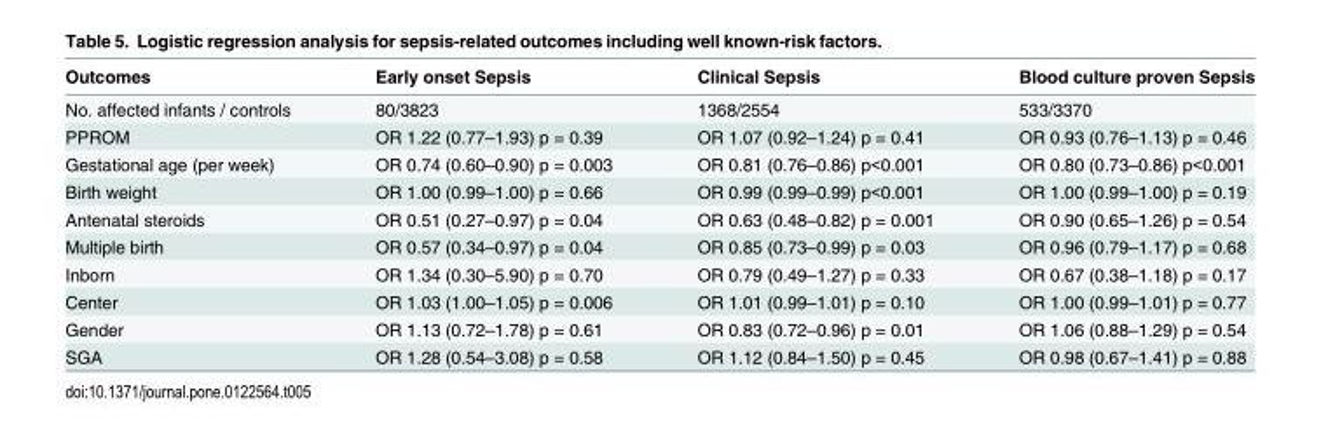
<table><thead><tr><td>Outcomes</td><td>Early onset Sepsis</td><td>Clinical Sepsis</td><td>Blood culture proven Sepsis</td></tr></thead><tbody><tr><td>No. affected infants / controls</td><td>80/3823</td><td>1368/2554</td><td>533/3370</td></tr><tr><td>PPROM</td><td>OR 1.22 (0.77–1.93) p = 0.39</td><td>OR 1.07 (0.92–1.24) p = 0.41</td><td>OR 0.93 (0.76–1.13) p = 0.46</td></tr><tr><td>Gestational age (per week)</td><td>OR 0.74 (0.60–0.90) p = 0.003</td><td>OR 0.81 (0.76–0.86) p&lt;0.001</td><td>OR 0.80 (0.73–0.86) p&lt;0.001</td></tr><tr><td>Birth weight</td><td>OR 1.00 (0.99–1.00) p = 0.66</td><td>OR 0.99 (0.99–0.99) p&lt;0.001</td><td>OR 1.00 (0.99–1.00) p = 0.19</td></tr><tr><td>Antenatal steroids</td><td>OR 0.51 (0.27–0.97) p = 0.04</td><td>OR 0.63 (0.48–0.82) p = 0.001</td><td>OR 0.90 (0.65–1.26) p = 0.54</td></tr><tr><td>Multiple birth</td><td>OR 0.57 (0.34–0.97) p = 0.04</td><td>OR 0.85 (0.73–0.99) p = 0.03</td><td>OR 0.96 (0.79–1.17) p = 0.68</td></tr><tr><td>Inborn</td><td>OR 1.34 (0.30–5.90) p = 0.70</td><td>OR 0.79 (0.49–1.27) p = 0.33</td><td>OR 0.67 (0.38–1.18) p = 0.17</td></tr><tr><td>Center</td><td>OR 1.03 (1.00–1.05) p = 0.006</td><td>OR 1.01 (0.99–1.01) p = 0.10</td><td>OR 1.00 (0.99–1.01) p = 0.77</td></tr><tr><td>Gender</td><td>OR 1.13 (0.72–1.78) p = 0.61</td><td>OR 0.83 (0.72–0.96) p = 0.01</td><td>OR 1.06 (0.88–1.29) p = 0.54</td></tr><tr><td>SGA</td><td>OR 1.28 (0.54–3.08) p = 0.58</td><td>OR 1.12 (0.84–1.50) p = 0.45</td><td>OR 0.98 (0.67–1.41) p = 0.88</td></tr></tbody></table>